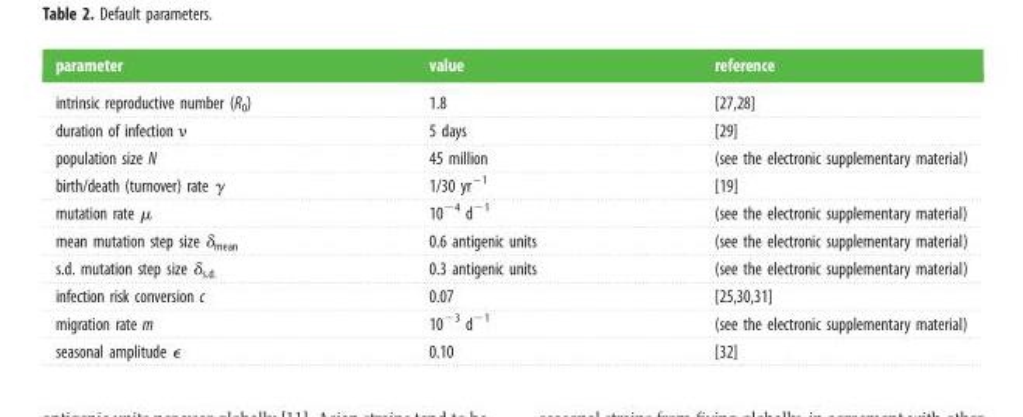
<table><thead><tr><td>parameter</td><td>value</td><td>reference</td></tr></thead><tbody><tr><td>intrinsic reproductive number (R<sub>0</sub>)</td><td>1.8</td><td>[27,28]</td></tr><tr><td>duration of infection ν</td><td>5 days</td><td>[29]</td></tr><tr><td>population size N</td><td>45 million</td><td>(see the electronic supplementary material)</td></tr><tr><td>birth/death (turnover) rate γ</td><td>1/30 yr<sup>–1</sup></td><td>[19]</td></tr><tr><td>mutation rate μ</td><td>10<sup>−4</sup> d<sup>−1</sup></td><td>(see the electronic supplementary material)</td></tr><tr><td>mean mutation step size δ<sub>mean</sub></td><td>0.6 antigenic units</td><td>(see the electronic supplementary material)</td></tr><tr><td>s.d. mutation step size δ<sub>s.d.</sub></td><td>0.3 antigenic units</td><td>(see the electronic supplementary material)</td></tr><tr><td>infection risk conversion c</td><td>0.07</td><td>[25,30,31]</td></tr><tr><td>migration rate m</td><td>10<sup>−3</sup> d<sup>−1</sup></td><td>(see the electronic supplementary material)</td></tr><tr><td>seasonal amplitude ε</td><td>0.10</td><td>[32]</td></tr></tbody></table>